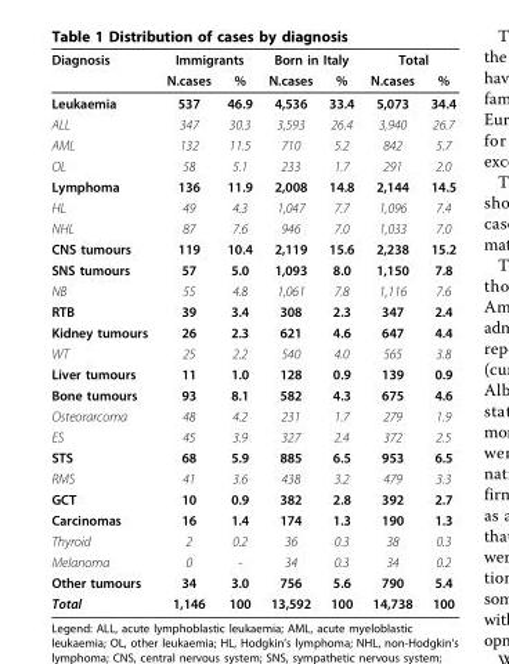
<table><thead><tr><td rowspan="2">Diagnosis</td><td colspan="2">Immigrants</td><td colspan="2">Born in Italy</td><td colspan="2">Total</td></tr><tr><td>N.cases</td><td>%</td><td>N.cases</td><td>%</td><td>N.cases</td><td>%</td></tr></thead><tbody><tr><td>Leukaemia</td><td>537</td><td>46.9</td><td>4,536</td><td>33.4</td><td>5,073</td><td>34.4</td></tr><tr><td>ALL</td><td>347</td><td>30.3</td><td>3,593</td><td>26.4</td><td>3,940</td><td>26.7</td></tr><tr><td>AML</td><td>132</td><td>11.5</td><td>710</td><td>5.2</td><td>842</td><td>5.7</td></tr><tr><td>OL</td><td>58</td><td>5.1</td><td>233</td><td>1.7</td><td>291</td><td>2.0</td></tr><tr><td>Lymphoma</td><td>136</td><td>11.9</td><td>2,008</td><td>14.8</td><td>2,144</td><td>14.5</td></tr><tr><td>HL</td><td>49</td><td>4.3</td><td>1,047</td><td>7.7</td><td>1,096</td><td>7.4</td></tr><tr><td>NHL</td><td>87</td><td>7.6</td><td>946</td><td>7.0</td><td>1,033</td><td>7.0</td></tr><tr><td>CNS tumours</td><td>119</td><td>10.4</td><td>2,119</td><td>15.6</td><td>2,238</td><td>15.2</td></tr><tr><td>SNS tumours</td><td>57</td><td>5.0</td><td>1,093</td><td>8.0</td><td>1,150</td><td>7.8</td></tr><tr><td>NB</td><td>55</td><td>4.8</td><td>1,061</td><td>7.8</td><td>1,116</td><td>7.6</td></tr><tr><td>RTB</td><td>39</td><td>3.4</td><td>308</td><td>2.3</td><td>347</td><td>2.4</td></tr><tr><td>Kidney tumours</td><td>26</td><td>2.3</td><td>621</td><td>4.6</td><td>647</td><td>4.4</td></tr><tr><td>WT</td><td>25</td><td>2.2</td><td>540</td><td>4.0</td><td>565</td><td>3.8</td></tr><tr><td>Liver tumours</td><td>11</td><td>1.0</td><td>128</td><td>0.9</td><td>139</td><td>0.9</td></tr><tr><td>Bone tumours</td><td>93</td><td>8.1</td><td>582</td><td>4.3</td><td>675</td><td>4.6</td></tr><tr><td>Osteorarcoma</td><td>48</td><td>4.2</td><td>231</td><td>1.7</td><td>279</td><td>1.9</td></tr><tr><td>ES</td><td>45</td><td>3.9</td><td>327</td><td>2.4</td><td>372</td><td>2.5</td></tr><tr><td>STS</td><td>68</td><td>5.9</td><td>885</td><td>6.5</td><td>953</td><td>6.5</td></tr><tr><td>RMS</td><td>41</td><td>3.6</td><td>438</td><td>3.2</td><td>479</td><td>3.3</td></tr><tr><td>GCT</td><td>10</td><td>0.9</td><td>382</td><td>2.8</td><td>392</td><td>2.7</td></tr><tr><td>Carcinomas</td><td>16</td><td>1.4</td><td>174</td><td>1.3</td><td>190</td><td>1.3</td></tr><tr><td>Thyroid</td><td>2</td><td>0.2</td><td>36</td><td>0.3</td><td>38</td><td>0.3</td></tr><tr><td>Melanoma</td><td>0</td><td>-</td><td>34</td><td>0.3</td><td>34</td><td>0.2</td></tr><tr><td>Other tumours</td><td>34</td><td>3.0</td><td>756</td><td>5.6</td><td>790</td><td>5.4</td></tr><tr><td>Total</td><td>1,146</td><td>100</td><td>13,592</td><td>100</td><td>14,738</td><td>100</td></tr></tbody></table>